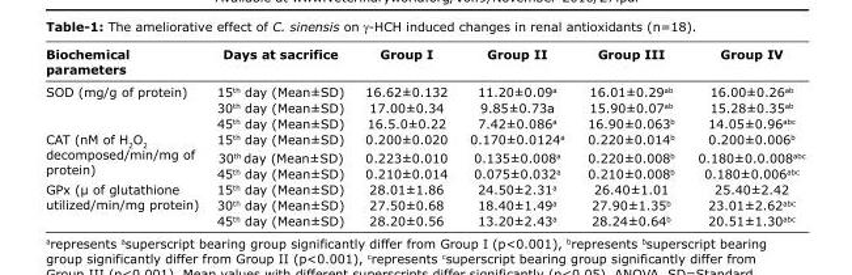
<table><thead><tr><td>Biochemical parameters</td><td>Days at sacrifice</td><td>Group I</td><td>Group II</td><td>Group III</td><td>Group IV</td></tr></thead><tbody><tr><td rowspan="3">SOD (mg/g of protein)</td><td>15<sup>th</sup> day (Mean±SD)</td><td>16.62±0.132</td><td>11.20±0.09<sup>a</sup></td><td>16.01±0.29<sup>ab</sup></td><td>16.00±0.26<sup>ab</sup></td></tr><tr><td>30<sup>th</sup> day (Mean±SD)</td><td>17.00±0.34</td><td>9.85±0.73a</td><td>15.90±0.07<sup>ab</sup></td><td>15.28±0.35<sup>ab</sup></td></tr><tr><td>45<sup>th</sup> day (Mean±SD)</td><td>16.5.0±0.22</td><td>7.42±0.086<sup>a</sup></td><td>16.90±0.063<sup>b</sup></td><td>14.05±0.96<sup>abc</sup></td></tr><tr><td rowspan="3">CAT (nM of H<sub>2</sub>O<sub>2</sub> decomposed/min/mg of protein)</td><td>15<sup>th</sup> day (Mean±SD)</td><td>0.200±0.020</td><td>0.170±0.0124<sup>a</sup></td><td>0.220±0.014<sup>b</sup></td><td>0.200±0.006<sup>b</sup></td></tr><tr><td>30<sup>th</sup> day (Mean±SD)</td><td>0.223±0.010</td><td>0.135±0.008<sup>a</sup></td><td>0.220±0.008<sup>b</sup></td><td>0.180±0.0.008<sup>abc</sup></td></tr><tr><td>45<sup>th</sup> day (Mean±SD)</td><td>0.210±0.014</td><td>0.075±0.032<sup>a</sup></td><td>0.210±0.008<sup>b</sup></td><td>0.180±0.006<sup>abc</sup></td></tr><tr><td rowspan="3">GPx (μ of glutathione utilized/min/mg protein)</td><td>15<sup>th</sup> day (Mean±SD)</td><td>28.01±1.86</td><td>24.50±2.31<sup>a</sup></td><td>26.40±1.01</td><td>25.40±2.42</td></tr><tr><td>30<sup>th</sup> day (Mean±SD)</td><td>27.50±0.68</td><td>18.40±1.49<sup>a</sup></td><td>27.90±1.35<sup>b</sup></td><td>23.01±2.62<sup>abc</sup></td></tr><tr><td>45<sup>th</sup> day (Mean±SD)</td><td>28.20±0.56</td><td>13.20±2.43<sup>a</sup></td><td>28.24±0.64<sup>b</sup></td><td>20.51±1.30<sup>abc</sup></td></tr></tbody></table>